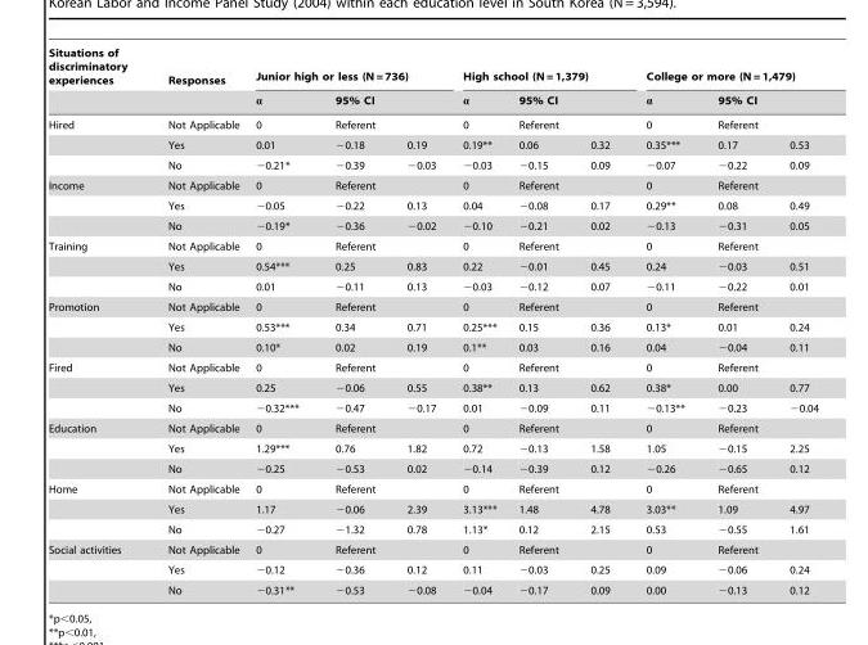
<table><thead><tr><td rowspan="4">Situations of discriminatory experiences Hired</td><td rowspan="4">Responses Not Applicable Yes</td><td colspan="3">Junior high or less (N = 736)</td><td colspan="3">High school (N = 1,379)</td><td colspan="3">College or more (N = 1,479)</td></tr><tr><td rowspan="3">α 0 0.01</td><td rowspan="2" colspan="2">95% CI Referent</td><td rowspan="3">α 0 0.19**</td><td rowspan="2" colspan="2">95% CI Referent</td><td rowspan="3">α 0 0.35***</td><td rowspan="2" colspan="2">95% CI Referent</td></tr><tr></tr><tr><td>−0.18</td><td>0.19</td><td>0.06</td><td>0.32</td><td>0.17</td><td>0.53</td></tr></thead><tbody><tr><td></td><td>No</td><td>−0.21*</td><td>−0.39</td><td>−0.03</td><td>−0.03</td><td>−0.15</td><td>0.09</td><td>−0.07</td><td>−0.22</td><td>0.09</td></tr><tr><td rowspan="3">Income</td><td>Not Applicable</td><td>0</td><td colspan="2">Referent</td><td>0</td><td colspan="2">Referent</td><td>0</td><td colspan="2">Referent</td></tr><tr><td>Yes</td><td>−0.05</td><td>−0.22</td><td>0.13</td><td>0.04</td><td>−0.08</td><td>0.17</td><td>0.29**</td><td>0.08</td><td>0.49</td></tr><tr><td>No</td><td>−0.19*</td><td>−0.36</td><td>−0.02</td><td>−0.10</td><td>−0.21</td><td>0.02</td><td>−0.13</td><td>−0.31</td><td>0.05</td></tr><tr><td rowspan="3">Training</td><td>Not Applicable</td><td>0</td><td colspan="2">Referent</td><td>0</td><td colspan="2">Referent</td><td>0</td><td colspan="2">Referent</td></tr><tr><td>Yes</td><td>0.54***</td><td>0.25</td><td>0.83</td><td>0.22</td><td>−0.01</td><td>0.45</td><td>0.24</td><td>−0.03</td><td>0.51</td></tr><tr><td>No</td><td>0.01</td><td>−0.11</td><td>0.13</td><td>−0.03</td><td>−0.12</td><td>0.07</td><td>−0.11</td><td>−0.22</td><td>0.01</td></tr><tr><td rowspan="3">Promotion</td><td>Not Applicable</td><td>0</td><td colspan="2">Referent</td><td>0</td><td colspan="2">Referent</td><td>0</td><td colspan="2">Referent</td></tr><tr><td>Yes</td><td>0.53***</td><td>0.34</td><td>0.71</td><td>0.25***</td><td>0.15</td><td>0.36</td><td>0.13*</td><td>0.01</td><td>0.24</td></tr><tr><td>No</td><td>0.10*</td><td>0.02</td><td>0.19</td><td>0.1**</td><td>0.03</td><td>0.16</td><td>0.04</td><td>−0.04</td><td>0.11</td></tr><tr><td rowspan="3">Fired</td><td>Not Applicable</td><td>0</td><td colspan="2">Referent</td><td>0</td><td colspan="2">Referent</td><td>0</td><td colspan="2">Referent</td></tr><tr><td>Yes</td><td>0.25</td><td>−0.06</td><td>0.55</td><td>0.38**</td><td>0.13</td><td>0.62</td><td>0.38*</td><td>0.00</td><td>0.77</td></tr><tr><td>No</td><td>−0.32***</td><td>−0.47</td><td>−0.17</td><td>0.01</td><td>−0.09</td><td>0.11</td><td>−0.13**</td><td>−0.23</td><td>−0.04</td></tr><tr><td rowspan="3">Education</td><td>Not Applicable</td><td>0</td><td colspan="2">Referent</td><td>0</td><td colspan="2">Referent</td><td>0</td><td colspan="2">Referent</td></tr><tr><td>Yes</td><td>1.29***</td><td>0.76</td><td>1.82</td><td>0.72</td><td>−0.13</td><td>1.58</td><td>1.05</td><td>−0.15</td><td>2.25</td></tr><tr><td>No</td><td>−0.25</td><td>−0.53</td><td>0.02</td><td>−0.14</td><td>−0.39</td><td>0.12</td><td>−0.26</td><td>−0.65</td><td>0.12</td></tr><tr><td rowspan="3">Home</td><td>Not Applicable</td><td>0</td><td colspan="2">Referent</td><td>0</td><td colspan="2">Referent</td><td>0</td><td colspan="2">Referent</td></tr><tr><td>Yes</td><td>1.17</td><td>−0.06</td><td>2.39</td><td>3.13***</td><td>1.48</td><td>4.78</td><td>3.03**</td><td>1.09</td><td>4.97</td></tr><tr><td>No</td><td>−0.27</td><td>−1.32</td><td>0.78</td><td>1.13*</td><td>0.12</td><td>2.15</td><td>0.53</td><td>−0.55</td><td>1.61</td></tr><tr><td rowspan="3">Social activities</td><td>Not Applicable</td><td>0</td><td colspan="2">Referent</td><td>0</td><td colspan="2">Referent</td><td>0</td><td colspan="2">Referent</td></tr><tr><td>Yes</td><td>−0.12</td><td>−0.36</td><td>0.12</td><td>0.11</td><td>−0.03</td><td>0.25</td><td>0.09</td><td>−0.06</td><td>0.24</td></tr><tr><td>No</td><td>−0.31**</td><td>−0.53</td><td>−0.08</td><td>−0.04</td><td>−0.17</td><td>0.09</td><td>0.00</td><td>−0.13</td><td>0.12</td></tr></tbody></table>